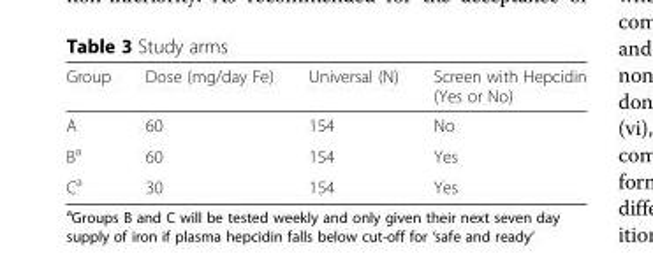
<table><thead><tr><td>Group</td><td>Dose (mg/day Fe)</td><td>Universal (N)</td><td>Screen with Hepcidin (Yes or No)</td></tr></thead><tbody><tr><td>A</td><td>60</td><td>154</td><td>No</td></tr><tr><td>B<sup>a</sup></td><td>60</td><td>154</td><td>Yes</td></tr><tr><td>C<sup>a</sup></td><td>30</td><td>154</td><td>Yes</td></tr></tbody></table>